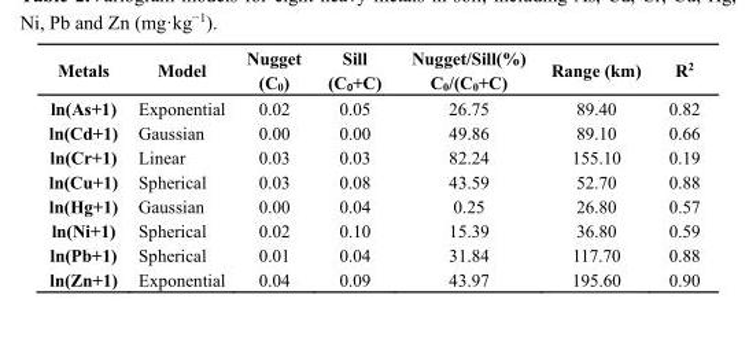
<table><thead><tr><td>Metals</td><td>Model</td><td>Nugget (C<sub>0</sub>)</td><td>Sill (C<sub>0</sub>+C)</td><td>Nugget/Sill(%) C<sub>0</sub>/(C<sub>0</sub>+C)</td><td>Range (km)</td><td>R<sup>2</sup></td></tr></thead><tbody><tr><td>ln(As+1)</td><td>Exponential</td><td>0.02</td><td>0.05</td><td>26.75</td><td>89.40</td><td>0.82</td></tr><tr><td>ln(Cd+1)</td><td>Gaussian</td><td>0.00</td><td>0.00</td><td>49.86</td><td>89.10</td><td>0.66</td></tr><tr><td>ln(Cr+1)</td><td>Linear</td><td>0.03</td><td>0.03</td><td>82.24</td><td>155.10</td><td>0.19</td></tr><tr><td>ln(Cu+1)</td><td>Spherical</td><td>0.03</td><td>0.08</td><td>43.59</td><td>52.70</td><td>0.88</td></tr><tr><td>ln(Hg+1)</td><td>Gaussian</td><td>0.00</td><td>0.04</td><td>0.25</td><td>26.80</td><td>0.57</td></tr><tr><td>ln(Ni+1)</td><td>Spherical</td><td>0.02</td><td>0.10</td><td>15.39</td><td>36.80</td><td>0.59</td></tr><tr><td>ln(Pb+1)</td><td>Spherical</td><td>0.01</td><td>0.04</td><td>31.84</td><td>117.70</td><td>0.88</td></tr><tr><td>ln(Zn+1)</td><td>Exponential</td><td>0.04</td><td>0.09</td><td>43.97</td><td>195.60</td><td>0.90</td></tr></tbody></table>